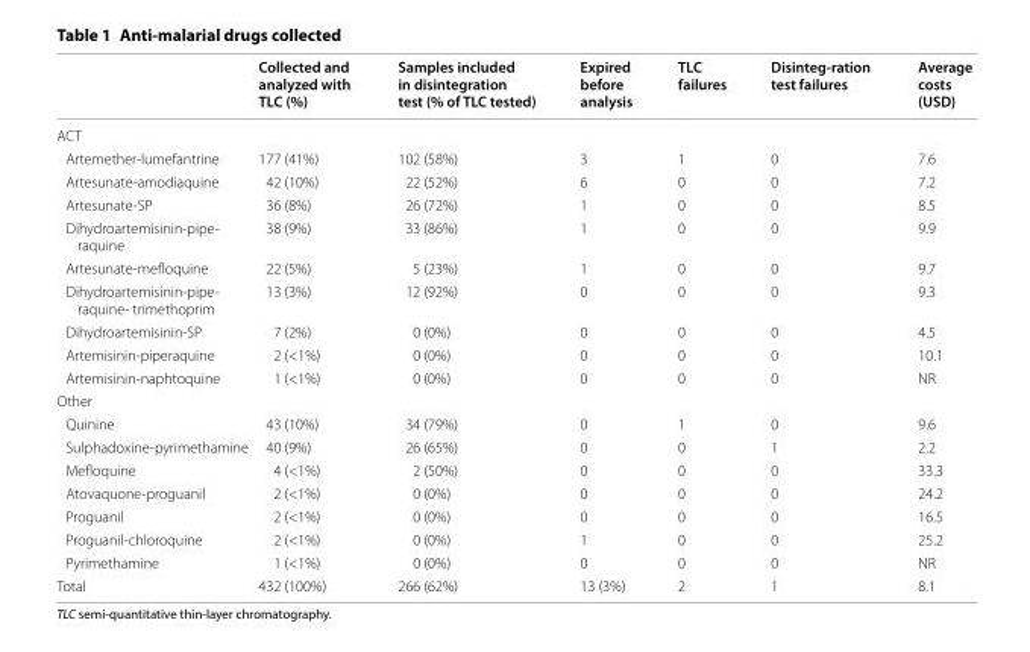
<table><thead><tr><td></td><td>Collected and analyzed with TLC (%)</td><td>Samples included in disintegration test (% of TLC tested)</td><td>Expired before analysis</td><td>TLC failures</td><td>Disinteg‑ration test failures</td><td>Average costs (USD)</td></tr></thead><tbody><tr><td colspan="7">ACT</td></tr><tr><td>Artemether‑lumefantrine</td><td>177 (41%)</td><td>102 (58%)</td><td>3</td><td>1</td><td>0</td><td>7.6</td></tr><tr><td>Artesunate‑amodiaquine</td><td>42 (10%)</td><td>22 (52%)</td><td>6</td><td>0</td><td>0</td><td>7.2</td></tr><tr><td>Artesunate‑SP</td><td>36 (8%)</td><td>26 (72%)</td><td>1</td><td>0</td><td>0</td><td>8.5</td></tr><tr><td>Dihydroartemisinin‑pipe‑ raquine</td><td>38 (9%)</td><td>33 (86%)</td><td>1</td><td>0</td><td>0</td><td>9.9</td></tr><tr><td>Artesunate‑mefloquine</td><td>22 (5%)</td><td>5 (23%)</td><td>1</td><td>0</td><td>0</td><td>9.7</td></tr><tr><td>Dihydroartemisinin‑pipe‑ raquine‑ trimethoprim</td><td>13 (3%)</td><td>12 (92%)</td><td>0</td><td>0</td><td>0</td><td>9.3</td></tr><tr><td>Dihydroartemisinin‑SP</td><td>7 (2%)</td><td>0 (0%)</td><td>0</td><td>0</td><td>0</td><td>4.5</td></tr><tr><td>Artemisinin‑piperaquine</td><td>2 (&lt;1%)</td><td>0 (0%)</td><td>0</td><td>0</td><td>0</td><td>10.1</td></tr><tr><td>Artemisinin‑naphtoquine</td><td>1 (&lt;1%)</td><td>0 (0%)</td><td>0</td><td>0</td><td>0</td><td>NR</td></tr><tr><td colspan="7">Other</td></tr><tr><td>Quinine</td><td>43 (10%)</td><td>34 (79%)</td><td>0</td><td>1</td><td>0</td><td>9.6</td></tr><tr><td>Sulphadoxine‑pyrimethamine</td><td>40 (9%)</td><td>26 (65%)</td><td>0</td><td>0</td><td>1</td><td>2.2</td></tr><tr><td>Mefloquine</td><td>4 (&lt;1%)</td><td>2 (50%)</td><td>0</td><td>0</td><td>0</td><td>33.3</td></tr><tr><td>Atovaquone‑proguanil</td><td>2 (&lt;1%)</td><td>0 (0%)</td><td>0</td><td>0</td><td>0</td><td>24.2</td></tr><tr><td>Proguanil</td><td>2 (&lt;1%)</td><td>0 (0%)</td><td>0</td><td>0</td><td>0</td><td>16.5</td></tr><tr><td>Proguanil‑chloroquine</td><td>2 (&lt;1%)</td><td>0 (0%)</td><td>1</td><td>0</td><td>0</td><td>25.2</td></tr><tr><td>Pyrimethamine</td><td>1 (&lt;1%)</td><td>0 (0%)</td><td>0</td><td>0</td><td>0</td><td>NR</td></tr><tr><td>Total</td><td>432 (100%)</td><td>266 (62%)</td><td>13 (3%)</td><td>2</td><td>1</td><td>8.1</td></tr></tbody></table>